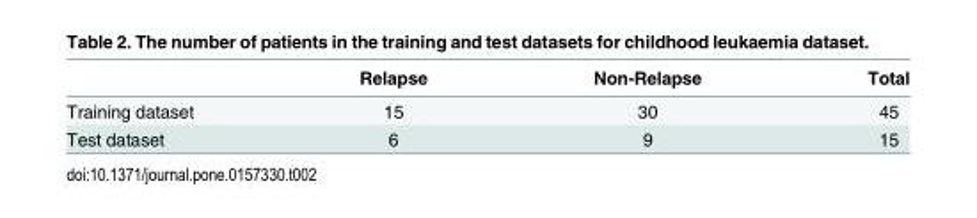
<table><thead><tr><td></td><td>Relapse</td><td>Non-Relapse</td><td>Total</td></tr></thead><tbody><tr><td>Training dataset</td><td>15</td><td>30</td><td>45</td></tr><tr><td>Test dataset</td><td>6</td><td>9</td><td>15</td></tr></tbody></table>